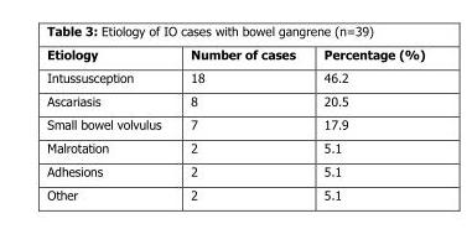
<table><thead><tr><td>Etiology</td><td>Number of cases</td><td>Percentage (%)</td></tr></thead><tbody><tr><td>Intussusception</td><td>18</td><td>46.2</td></tr><tr><td>Ascariasis</td><td>8</td><td>20.5</td></tr><tr><td>Small bowel volvulus</td><td>7</td><td>17.9</td></tr><tr><td>Malrotation</td><td>2</td><td>5.1</td></tr><tr><td>Adhesions</td><td>2</td><td>5.1</td></tr><tr><td>Other</td><td>2</td><td>5.1</td></tr></tbody></table>